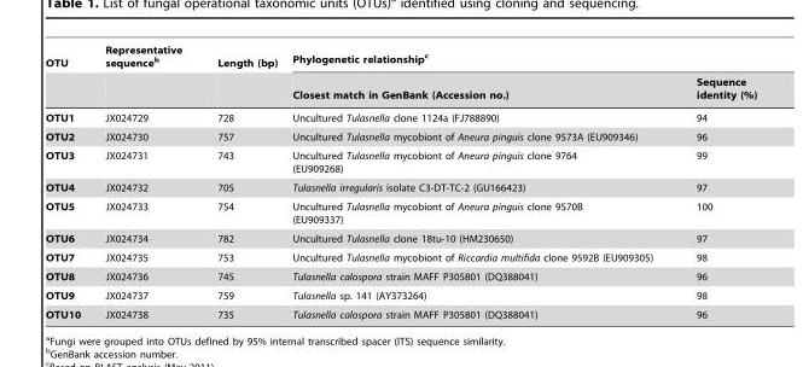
<table><thead><tr><td rowspan="2">OTU</td><td rowspan="2">Representative sequence<sup>b</sup></td><td rowspan="2">Length (bp)</td><td colspan="2">Phylogenetic relationship<sup>c</sup></td></tr><tr><td>Closest match in GenBank (Accession no.)</td><td>Sequence identity (%)</td></tr></thead><tbody><tr><td>OTU1</td><td>JX024729</td><td>728</td><td>Uncultured Tulasnella clone 1124a (FJ788890)</td><td>94</td></tr><tr><td>OTU2</td><td>JX024730</td><td>757</td><td>Uncultured Tulasnella mycobiont of Aneura pinguis clone 9573A (EU909346)</td><td>96</td></tr><tr><td>OTU3</td><td>JX024731</td><td>743</td><td>Uncultured Tulasnella mycobiont of Aneura pinguis clone 9764 (EU909268)</td><td>99</td></tr><tr><td>OTU4</td><td>JX024732</td><td>705</td><td>Tulasnella irregularis isolate C3-DT-TC-2 (GU166423)</td><td>97</td></tr><tr><td>OTU5</td><td>JX024733</td><td>754</td><td>Uncultured Tulasnella mycobiont of Aneura pinguis clone 9570B (EU909337)</td><td>100</td></tr><tr><td>OTU6</td><td>JX024734</td><td>782</td><td>Uncultured Tulasnella clone 18tu-10 (HM230650)</td><td>97</td></tr><tr><td>OTU7</td><td>JX024735</td><td>753</td><td>Uncultured Tulasnella mycobiont of Riccardia multifida clone 9592B (EU909305)</td><td>98</td></tr><tr><td>OTU8</td><td>JX024736</td><td>745</td><td>Tulasnella calospora strain MAFF P305801 (DQ388041)</td><td>96</td></tr><tr><td>OTU9</td><td>JX024737</td><td>759</td><td>Tulasnella sp. 141 (AY373264)</td><td>98</td></tr><tr><td>OTU10</td><td>JX024738</td><td>735</td><td>Tulasnella calospora strain MAFF P305801 (DQ388041)</td><td>96</td></tr></tbody></table>